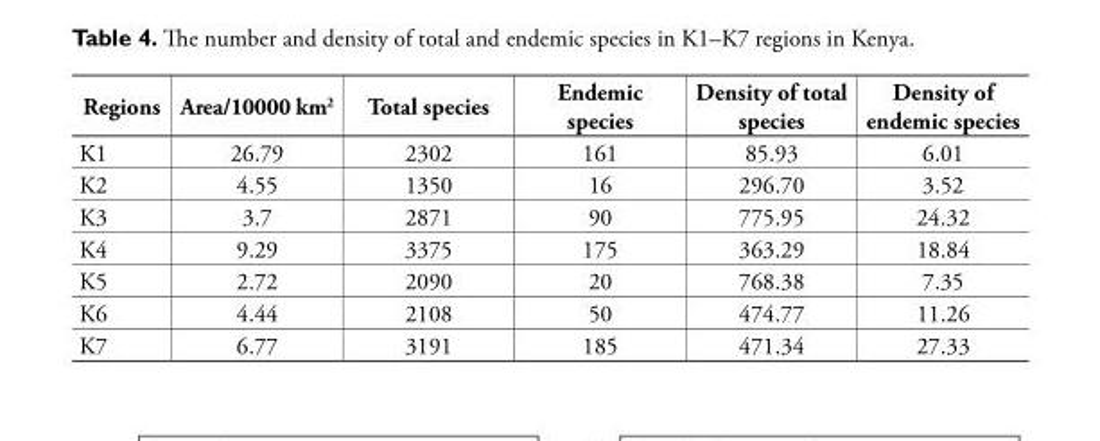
<table><thead><tr><td>Regions</td><td>Area/10000 km<sup>2</sup></td><td>Total species</td><td>Endemic species</td><td>Density of total species</td><td>Density of endemic species</td></tr></thead><tbody><tr><td>K1</td><td>26.79</td><td>2302</td><td>161</td><td>85.93</td><td>6.01</td></tr><tr><td>K2</td><td>4.55</td><td>1350</td><td>16</td><td>296.70</td><td>3.52</td></tr><tr><td>K3</td><td>3.7</td><td>2871</td><td>90</td><td>775.95</td><td>24.32</td></tr><tr><td>K4</td><td>9.29</td><td>3375</td><td>175</td><td>363.29</td><td>18.84</td></tr><tr><td>K5</td><td>2.72</td><td>2090</td><td>20</td><td>768.38</td><td>7.35</td></tr><tr><td>K6</td><td>4.44</td><td>2108</td><td>50</td><td>474.77</td><td>11.26</td></tr><tr><td>K7</td><td>6.77</td><td>3191</td><td>185</td><td>471.34</td><td>27.33</td></tr></tbody></table>